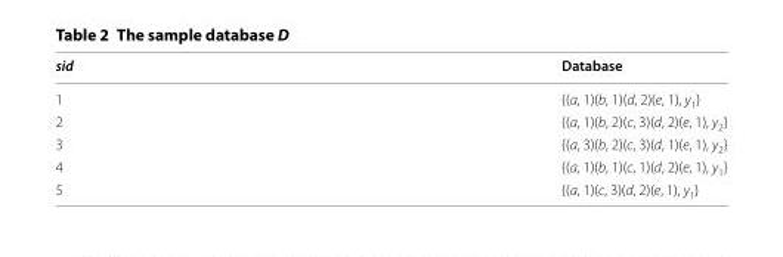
<table><thead><tr><td>sid</td><td>Database</td></tr></thead><tbody><tr><td>1</td><td>{(a, 1)(b, 1)(d, 2)(e, 1), y<sub>1</sub>}</td></tr><tr><td>2</td><td>{(a, 1)(b, 2)(c, 3)(d, 2)(e, 1), y<sub>2</sub>}</td></tr><tr><td>3</td><td>{(a, 3)(b, 2)(c, 3)(d, 1)(e, 1), y<sub>2</sub>}</td></tr><tr><td>4</td><td>{(a, 1)(b, 1)(c, 1)(d, 2)(e, 1), y<sub>1</sub>}</td></tr><tr><td>5</td><td>{(a, 1)(c, 3)(d, 2)(e, 1), y<sub>1</sub>}</td></tr></tbody></table>